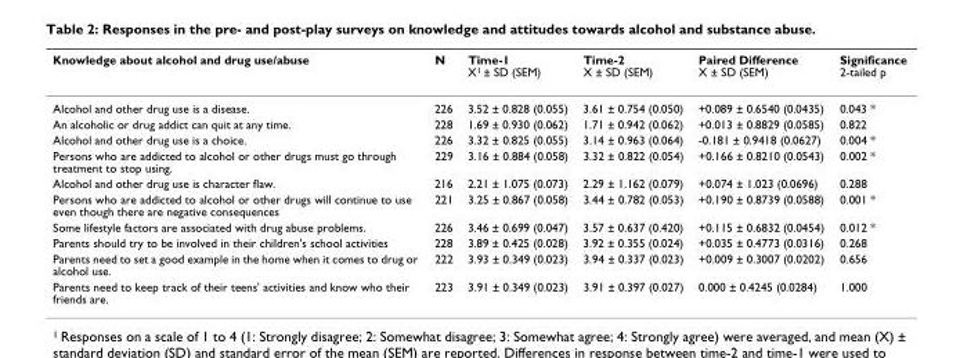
<table><thead><tr><td>Knowledge about alcohol and drug use/abuse</td><td>N</td><td>Time-1 X<sup>1</sup> ± SD (SEM)</td><td>Time-2 X ± SD (SEM)</td><td>Paired Difference X ± SD (SEM)</td><td>Significance 2-tailed p</td></tr></thead><tbody><tr><td>Alcohol and other drug use is a disease.</td><td>226</td><td>3.52 ± 0.828 (0.055)</td><td>3.61 ± 0.754 (0.050)</td><td>+0.089 ± 0.6540 (0.0435)</td><td>0.043 *</td></tr><tr><td>An alcoholic or drug addict can quit at any time.</td><td>228</td><td>1.69 ± 0.930 (0.062)</td><td>1.71 ± 0.942 (0.062)</td><td>+0.013 ± 0.8829 (0.0585)</td><td>0.822</td></tr><tr><td>Alcohol and other drug use is a choice.</td><td>226</td><td>3.32 ± 0.825 (0.055)</td><td>3.14 ± 0.963 (0.064)</td><td>-0.181 ± 0.9418 (0.0627)</td><td>0.004 *</td></tr><tr><td>Persons who are addicted to alcohol or other drugs must go through treatment to stop using.</td><td>229</td><td>3.16 ± 0.884 (0.058)</td><td>3.32 ± 0.822 (0.054)</td><td>+0.166 ± 0.8210 (0.0543)</td><td>0.002 *</td></tr><tr><td>Alcohol and other drug use is character flaw.</td><td>216</td><td>2.21 ± 1.075 (0.073)</td><td>2.29 ± 1.162 (0.079)</td><td>+0.074 ± 1.023 (0.0696)</td><td>0.288</td></tr><tr><td>Persons who are addicted to alcohol or other drugs will continue to use even though there are negative consequences</td><td>221</td><td>3.25 ± 0.867 (0.058)</td><td>3.44 ± 0.782 (0.053)</td><td>+0.190 ± 0.8739 (0.0588)</td><td>0.001 *</td></tr><tr><td>Some lifestyle factors are associated with drug abuse problems.</td><td>226</td><td>3.46 ± 0.699 (0.047)</td><td>3.57 ± 0.637 (0.420)</td><td>+0.115 ± 0.6832 (0.0454)</td><td>0.012 *</td></tr><tr><td>Parents should try to be involved in their children&#x27;s school activities</td><td>228</td><td>3.89 ± 0.425 (0.028)</td><td>3.92 ± 0.355 (0.024)</td><td>+0.035 ± 0.4773 (0.0316)</td><td>0.268</td></tr><tr><td>Parents need to set a good example in the home when it comes to drug or alcohol use.</td><td>222</td><td>3.93 ± 0.349 (0.023)</td><td>3.94 ± 0.337 (0.023)</td><td>+0.009 ± 0.3007 (0.0202)</td><td>0.656</td></tr><tr><td>Parents need to keep track of their teens&#x27; activities and know who their friends are.</td><td>223</td><td>3.91 ± 0.349 (0.023)</td><td>3.91 ± 0.397 (0.027)</td><td>0.000 ± 0.4245 (0.0284)</td><td>1.000</td></tr></tbody></table>